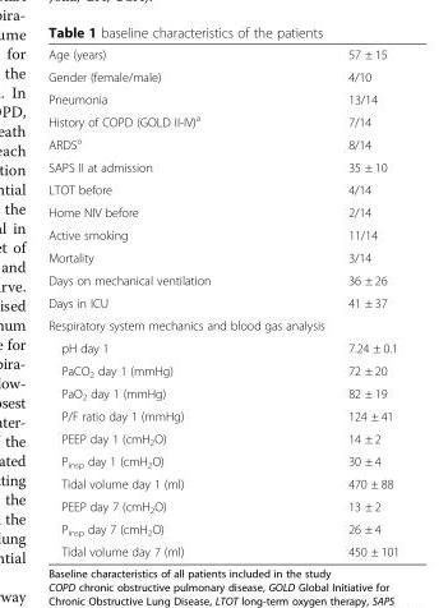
<table><tbody><tr><td>Age (years)</td><td>57 ± 15</td></tr><tr><td>Gender (female/male)</td><td>4/10</td></tr><tr><td>Pneumonia</td><td>13/14</td></tr><tr><td>History of COPD (GOLD II-IV)<sup>a</sup></td><td>7/14</td></tr><tr><td>ARDS<sup>a</sup></td><td>8/14</td></tr><tr><td>SAPS II at admission</td><td>35 ± 10</td></tr><tr><td>LTOT before</td><td>4/14</td></tr><tr><td>Home NIV before</td><td>2/14</td></tr><tr><td>Active smoking</td><td>11/14</td></tr><tr><td>Mortality</td><td>3/14</td></tr><tr><td>Days on mechanical ventilation</td><td>36 ± 26</td></tr><tr><td>Days in ICU</td><td>41 ± 37</td></tr><tr><td colspan="2">Respiratory system mechanics and blood gas analysis</td></tr><tr><td>pH day 1</td><td>7.24 ± 0.1</td></tr><tr><td>PaCO<sub>2</sub> day 1 (mmHg)</td><td>72 ± 20</td></tr><tr><td>PaO<sub>2</sub> day 1 (mmHg)</td><td>82 ± 19</td></tr><tr><td>P/F ratio day 1 (mmHg)</td><td>124 ± 41</td></tr><tr><td>PEEP day 1 (cmH<sub>2</sub>O)</td><td>14 ± 2</td></tr><tr><td>P<sub>insp</sub> day 1 (cmH<sub>2</sub>O)</td><td>30 ± 4</td></tr><tr><td>Tidal volume day 1 (ml)</td><td>470 ± 88</td></tr><tr><td>PEEP day 7 (cmH<sub>2</sub>O)</td><td>13 ± 2</td></tr><tr><td>P<sub>insp</sub> day 7 (cmH<sub>2</sub>O)</td><td>26 ± 4</td></tr><tr><td>Tidal volume day 7 (ml)</td><td>450 ± 101</td></tr></tbody></table>